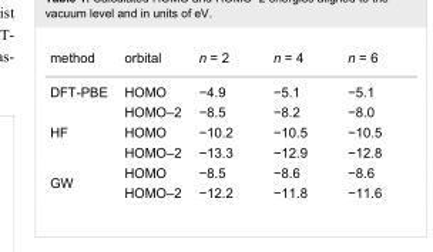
<table><tbody><tr><td>method</td><td>orbital</td><td>n = 2</td><td>n = 4</td><td>n = 6</td></tr><tr><td rowspan="2">DFT-PBE</td><td>HOMO</td><td>−4.9</td><td>−5.1</td><td>−5.1</td></tr><tr><td>HOMO–2</td><td>−8.5</td><td>−8.2</td><td>−8.0</td></tr><tr><td rowspan="2">HF</td><td>HOMO</td><td>−10.2</td><td>−10.5</td><td>−10.5</td></tr><tr><td>HOMO–2</td><td>−13.3</td><td>−12.9</td><td>−12.8</td></tr><tr><td rowspan="2">GW</td><td>HOMO</td><td>−8.5</td><td>−8.6</td><td>−8.6</td></tr><tr><td>HOMO–2</td><td>−12.2</td><td>−11.8</td><td>−11.6</td></tr></tbody></table>